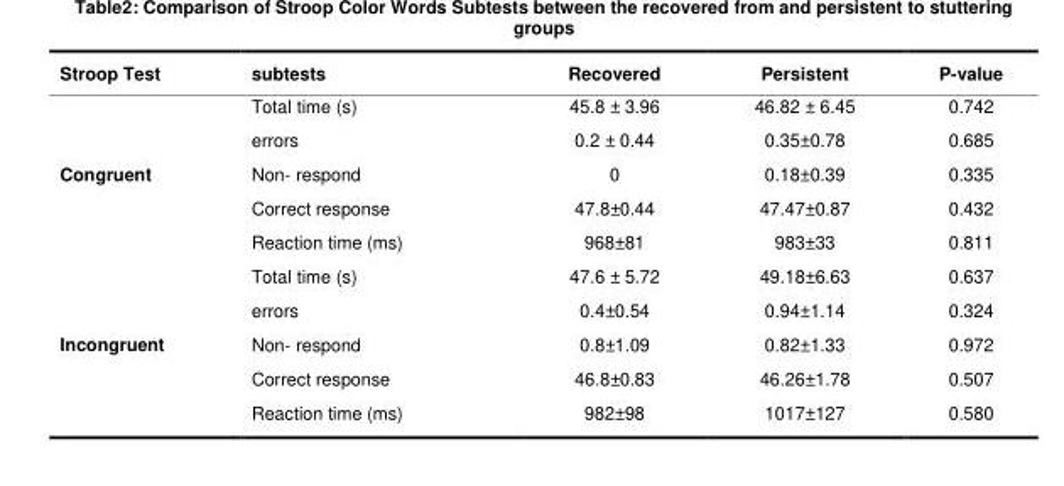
<table><thead><tr><td>Stroop Test</td><td>subtests</td><td>Recovered</td><td>Persistent</td><td>P-value</td></tr></thead><tbody><tr><td rowspan="5">Congruent</td><td>Total time (s)</td><td>45.8 ± 3.96</td><td>46.82 ± 6.45</td><td>0.742</td></tr><tr><td>errors</td><td>0.2 ± 0.44</td><td>0.35±0.78</td><td>0.685</td></tr><tr><td>Non- respond</td><td>0</td><td>0.18±0.39</td><td>0.335</td></tr><tr><td>Correct response</td><td>47.8±0.44</td><td>47.47±0.87</td><td>0.432</td></tr><tr><td>Reaction time (ms)</td><td>968±81</td><td>983±33</td><td>0.811</td></tr><tr><td rowspan="5">Incongruent</td><td>Total time (s)</td><td>47.6 ± 5.72</td><td>49.18±6.63</td><td>0.637</td></tr><tr><td>errors</td><td>0.4±0.54</td><td>0.94±1.14</td><td>0.324</td></tr><tr><td>Non- respond</td><td>0.8±1.09</td><td>0.82±1.33</td><td>0.972</td></tr><tr><td>Correct response</td><td>46.8±0.83</td><td>46.26±1.78</td><td>0.507</td></tr><tr><td>Reaction time (ms)</td><td>982±98</td><td>1017±127</td><td>0.580</td></tr></tbody></table>